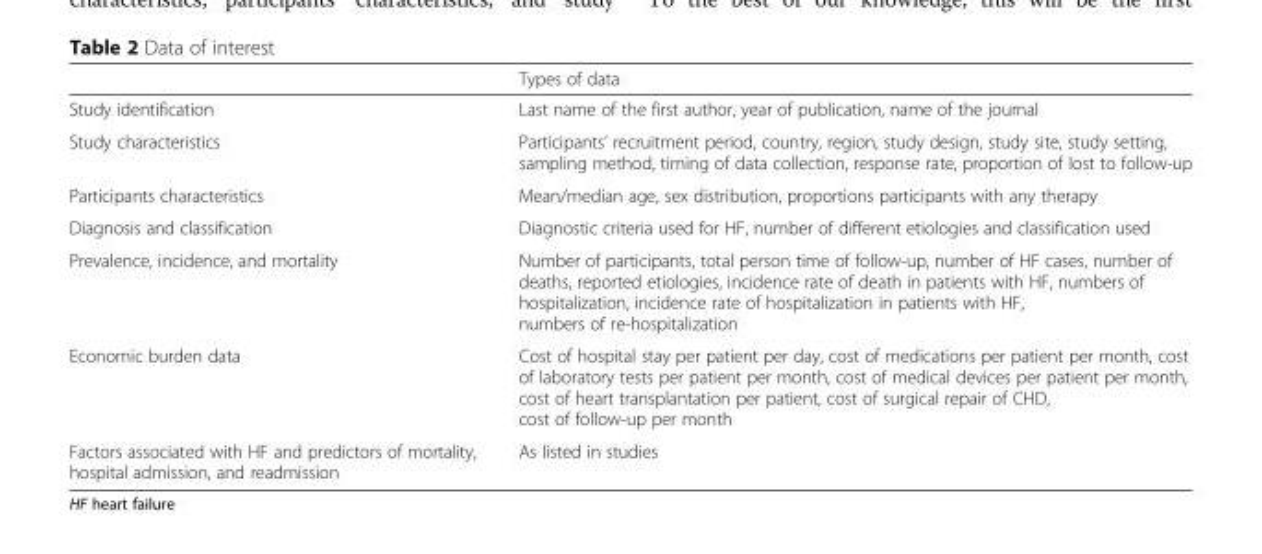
<table><thead><tr><td></td><td>Types of data</td></tr></thead><tbody><tr><td>Study identification</td><td>Last name of the first author, year of publication, name of the journal</td></tr><tr><td>Study characteristics</td><td>Participants’ recruitment period, country, region, study design, study site, study setting, sampling method, timing of data collection, response rate, proportion of lost to follow-up</td></tr><tr><td>Participants characteristics</td><td>Mean/median age, sex distribution, proportions participants with any therapy</td></tr><tr><td>Diagnosis and classification</td><td>Diagnostic criteria used for HF, number of different etiologies and classification used</td></tr><tr><td>Prevalence, incidence, and mortality</td><td>Number of participants, total person time of follow-up, number of HF cases, number of deaths, reported etiologies, incidence rate of death in patients with HF, numbers of hospitalization, incidence rate of hospitalization in patients with HF, numbers of re-hospitalization</td></tr><tr><td>Economic burden data</td><td>Cost of hospital stay per patient per day, cost of medications per patient per month, cost of laboratory tests per patient per month, cost of medical devices per patient per month, cost of heart transplantation per patient, cost of surgical repair of CHD, cost of follow-up per month</td></tr><tr><td>Factors associated with HF and predictors of mortality, hospital admission, and readmission</td><td>As listed in studies</td></tr></tbody></table>